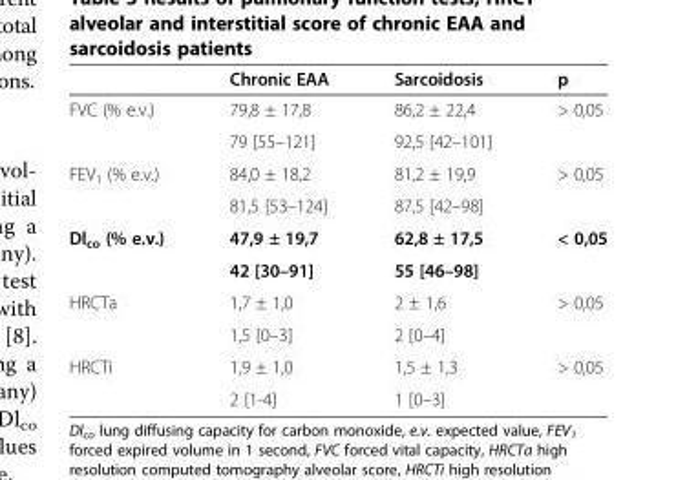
<table><thead><tr><td></td><td>Chronic EAA</td><td>Sarcoidosis</td><td>p</td></tr></thead><tbody><tr><td rowspan="2">FVC (% e.v.)</td><td>79,8 ± 17,8</td><td>86,2 ± 22,4</td><td rowspan="2">&gt; 0,05</td></tr><tr><td>79 [55–121]</td><td>92,5 [42–101]</td></tr><tr><td rowspan="2">FEV<sub>1</sub> (% e.v.)</td><td>84,0 ± 18,2</td><td>81,2 ± 19,9</td><td rowspan="2">&gt; 0,05</td></tr><tr><td>81,5 [53–124]</td><td>87,5 [42–98]</td></tr><tr><td rowspan="2">Dl<sub>co</sub> (% e.v.)</td><td>47,9 ± 19,7</td><td>62,8 ± 17,5</td><td rowspan="2">&lt; 0,05</td></tr><tr><td>42 [30–91]</td><td>55 [46–98]</td></tr><tr><td rowspan="2">HRCTa</td><td>1,7 ± 1,0</td><td>2 ± 1,6</td><td rowspan="2">&gt; 0,05</td></tr><tr><td>1,5 [0–3]</td><td>2 [0–4]</td></tr><tr><td rowspan="2">HRCTi</td><td>1,9 ± 1,0</td><td>1,5 ± 1,3</td><td>&gt; 0,05</td></tr><tr><td>2 [1-4]</td><td>1 [0–3]</td><td></td></tr></tbody></table>